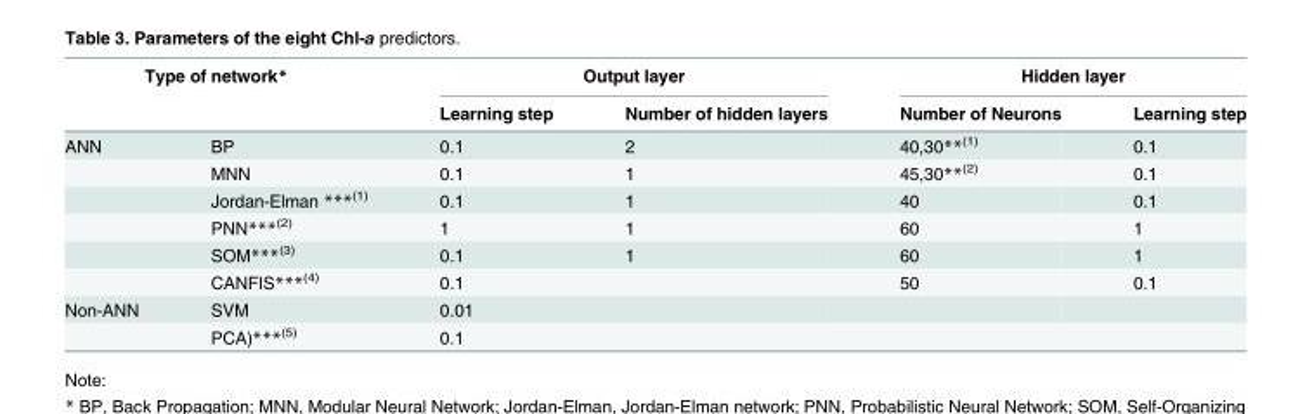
<table><thead><tr><td rowspan="2" colspan="2">Type of network*</td><td colspan="2">Output layer</td><td colspan="2">Hidden layer</td></tr><tr><td rowspan="2">Learning step 0.1</td><td rowspan="2">Number of hidden layers 2</td><td rowspan="2">Number of Neurons 40,30**<sup>(1)</sup></td><td rowspan="2">Learning step 0.1</td></tr><tr><td>ANN</td><td>BP</td></tr></thead><tbody><tr><td></td><td>MNN</td><td>0.1</td><td>1</td><td>45,30**<sup>(2)</sup></td><td>0.1</td></tr><tr><td></td><td>Jordan-Elman ***<sup>(1)</sup></td><td>0.1</td><td>1</td><td>40</td><td>0.1</td></tr><tr><td></td><td>PNN***<sup>(2)</sup></td><td>1</td><td>1</td><td>60</td><td>1</td></tr><tr><td></td><td>SOM***<sup>(3)</sup></td><td>0.1</td><td>1</td><td>60</td><td>1</td></tr><tr><td></td><td>CANFIS***<sup>(4)</sup></td><td>0.1</td><td></td><td>50</td><td>0.1</td></tr><tr><td rowspan="2">Non-ANN</td><td>SVM</td><td>0.01</td><td></td><td></td><td></td></tr><tr><td>PCA)***<sup>(5)</sup></td><td>0.1</td><td></td><td></td><td></td></tr></tbody></table>